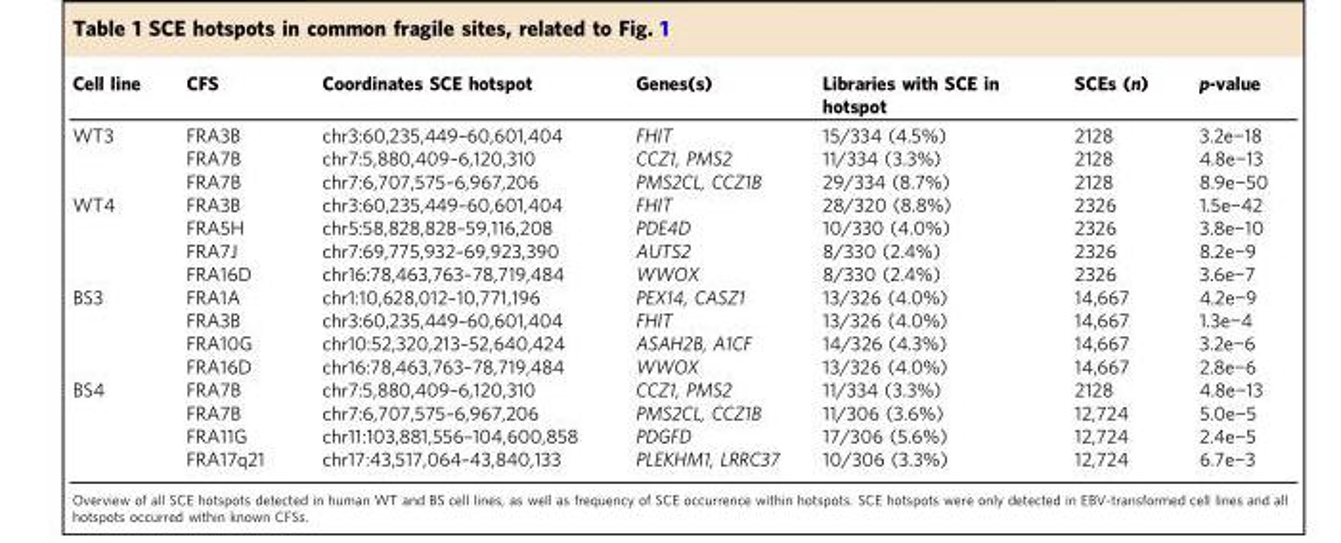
<table><thead><tr><td>Cell line</td><td>CFS</td><td>Coordinates SCE hotspot</td><td>Genes(s)</td><td>Libraries with SCE in hotspot</td><td>SCEs (n)</td><td>p-value</td></tr></thead><tbody><tr><td rowspan="3">WT3</td><td>FRA3B</td><td>chr3:60,235,449–60,601,404</td><td>FHIT</td><td>15/334 (4.5%)</td><td>2128</td><td>3.2e−18</td></tr><tr><td>FRA7B</td><td>chr7:5,880,409–6,120,310</td><td>CCZ1, PMS2</td><td>11/334 (3.3%)</td><td>2128</td><td>4.8e−13</td></tr><tr><td>FRA7B</td><td>chr7:6,707,575–6,967,206</td><td>PMS2CL, CCZ1B</td><td>29/334 (8.7%)</td><td>2128</td><td>8.9e−50</td></tr><tr><td rowspan="4">WT4</td><td>FRA3B</td><td>chr3:60,235,449–60,601,404</td><td>FHIT</td><td>28/320 (8.8%)</td><td>2326</td><td>1.5e−42</td></tr><tr><td>FRA5H</td><td>chr5:58,828,828–59,116,208</td><td>PDE4D</td><td>10/330 (4.0%)</td><td>2326</td><td>3.8e−10</td></tr><tr><td>FRA7J</td><td>chr7:69,775,932–69,923,390</td><td>AUTS2</td><td>8/330 (2.4%)</td><td>2326</td><td>8.2e−9</td></tr><tr><td>FRA16D</td><td>chr16:78,463,763–78,719,484</td><td>WWOX</td><td>8/330 (2.4%)</td><td>2326</td><td>3.6e−7</td></tr><tr><td rowspan="4">BS3</td><td>FRA1A</td><td>chr1:10,628,012–10,771,196</td><td>PEX14, CASZ1</td><td>13/326 (4.0%)</td><td>14,667</td><td>4.2e−9</td></tr><tr><td>FRA3B</td><td>chr3:60,235,449–60,601,404</td><td>FHIT</td><td>13/326 (4.0%)</td><td>14,667</td><td>1.3e−4</td></tr><tr><td>FRA10G</td><td>chr10:52,320,213–52,640,424</td><td>ASAH2B, A1CF</td><td>14/326 (4.3%)</td><td>14,667</td><td>3.2e−6</td></tr><tr><td>FRA16D</td><td>chr16:78,463,763–78,719,484</td><td>WWOX</td><td>13/326 (4.0%)</td><td>14,667</td><td>2.8e−6</td></tr><tr><td rowspan="4">BS4</td><td>FRA7B</td><td>chr7:5,880,409–6,120,310</td><td>CCZ1, PMS2</td><td>11/334 (3.3%)</td><td>2128</td><td>4.8e−13</td></tr><tr><td>FRA7B</td><td>chr7:6,707,575–6,967,206</td><td>PMS2CL, CCZ1B</td><td>11/306 (3.6%)</td><td>12,724</td><td>5.0e−5</td></tr><tr><td>FRA11G</td><td>chr11:103,881,556–104,600,858</td><td>PDGFD</td><td>17/306 (5.6%)</td><td>12,724</td><td>2.4e−5</td></tr><tr><td>FRA17q21</td><td>chr17:43,517,064–43,840,133</td><td>PLEKHM1, LRRC37</td><td>10/306 (3.3%)</td><td>12,724</td><td>6.7e−3</td></tr></tbody></table>